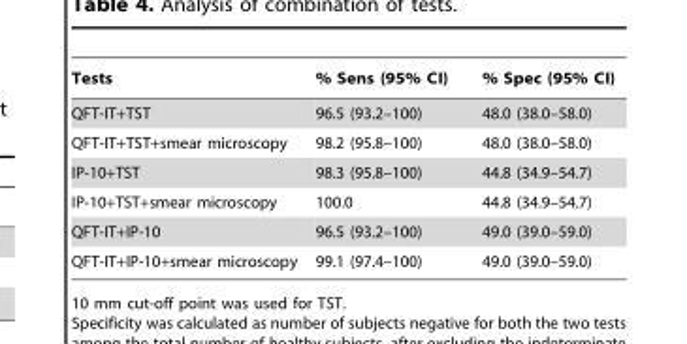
<table><thead><tr><td>Tests</td><td>% Sens (95% CI)</td><td>% Spec (95% CI)</td></tr></thead><tbody><tr><td>QFT-IT+TST</td><td>96.5 (93.2–100)</td><td>48.0 (38.0–58.0)</td></tr><tr><td>QFT-IT+TST+smear microscopy</td><td>98.2 (95.8–100)</td><td>48.0 (38.0–58.0)</td></tr><tr><td>IP-10+TST</td><td>98.3 (95.8–100)</td><td>44.8 (34.9–54.7)</td></tr><tr><td>IP-10+TST+smear microscopy</td><td>100.0</td><td>44.8 (34.9–54.7)</td></tr><tr><td>QFT-IT+IP-10</td><td>96.5 (93.2–100)</td><td>49.0 (39.0–59.0)</td></tr><tr><td>QFT-IT+IP-10+smear microscopy</td><td>99.1 (97.4–100)</td><td>49.0 (39.0–59.0)</td></tr></tbody></table>